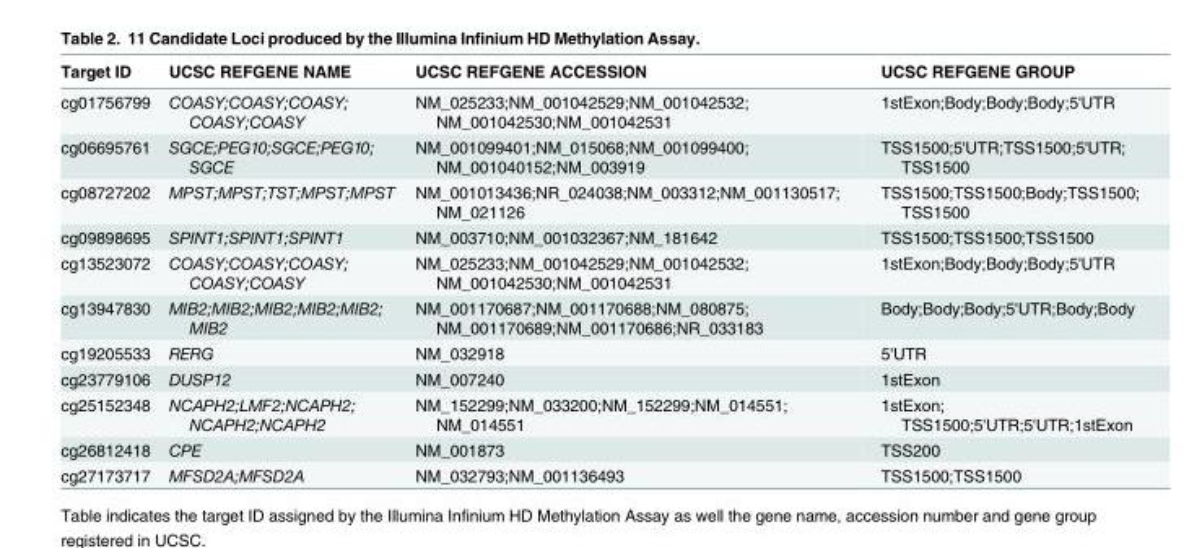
<table><thead><tr><td>Target ID</td><td>UCSC REFGENE NAME</td><td>UCSC REFGENE ACCESSION</td><td>UCSC REFGENE GROUP</td></tr></thead><tbody><tr><td>cg01756799</td><td>COASY;COASY;COASY; COASY;COASY</td><td>NM_025233;NM_001042529;NM_001042532; NM_001042530;NM_001042531</td><td>1stExon;Body;Body;Body;5&#x27;UTR</td></tr><tr><td>cg06695761</td><td>SGCE;PEG10;SGCE;PEG10; SGCE</td><td>NM_001099401;NM_015068;NM_001099400; NM_001040152;NM_003919</td><td>TSS1500;5&#x27;UTR;TSS1500;5&#x27;UTR; TSS1500</td></tr><tr><td>cg08727202</td><td>MPST;MPST;TST;MPST;MPST</td><td>NM_001013436;NR_024038;NM_003312;NM_001130517; NM_021126</td><td>TSS1500;TSS1500;Body;TSS1500; TSS1500</td></tr><tr><td>cg09898695</td><td>SPINT1;SPINT1;SPINT1</td><td>NM_003710;NM_001032367;NM_181642</td><td>TSS1500;TSS1500;TSS1500</td></tr><tr><td>cg13523072</td><td>COASY;COASY;COASY; COASY;COASY</td><td>NM_025233;NM_001042529;NM_001042532; NM_001042530;NM_001042531</td><td>1stExon;Body;Body;Body;5&#x27;UTR</td></tr><tr><td>cg13947830</td><td>MIB2;MIB2;MIB2;MIB2;MIB2; MIB2</td><td>NM_001170687;NM_001170688;NM_080875; NM_001170689;NM_001170686;NR_033183</td><td>Body;Body;Body;5&#x27;UTR;Body;Body</td></tr><tr><td>cg19205533</td><td>RERG</td><td>NM_032918</td><td>5&#x27;UTR</td></tr><tr><td>cg23779106</td><td>DUSP12</td><td>NM_007240</td><td>1stExon</td></tr><tr><td>cg25152348</td><td>NCAPH2;LMF2;NCAPH2; NCAPH2;NCAPH2</td><td>NM_152299;NM_033200;NM_152299;NM_014551; NM_014551</td><td>1stExon; TSS1500;5&#x27;UTR;5&#x27;UTR;1stExon</td></tr><tr><td>cg26812418</td><td>CPE</td><td>NM_001873</td><td>TSS200</td></tr><tr><td>cg27173717</td><td>MFSD2A;MFSD2A</td><td>NM_032793;NM_001136493</td><td>TSS1500;TSS1500</td></tr></tbody></table>